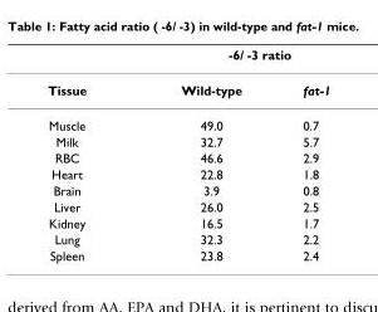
<table><thead><tr><td rowspan="2">Tissue</td><td colspan="2">-6/ -3 ratio</td></tr><tr><td>Wild-type</td><td>fat-1</td></tr></thead><tbody><tr><td>Muscle</td><td>49.0</td><td>0.7</td></tr><tr><td>Milk</td><td>32.7</td><td>5.7</td></tr><tr><td>RBC</td><td>46.6</td><td>2.9</td></tr><tr><td>Heart</td><td>22.8</td><td>1.8</td></tr><tr><td>Brain</td><td>3.9</td><td>0.8</td></tr><tr><td>Liver</td><td>26.0</td><td>2.5</td></tr><tr><td>Kidney</td><td>16.5</td><td>1.7</td></tr><tr><td>Lung</td><td>32.3</td><td>2.2</td></tr><tr><td>Spleen</td><td>23.8</td><td>2.4</td></tr></tbody></table>